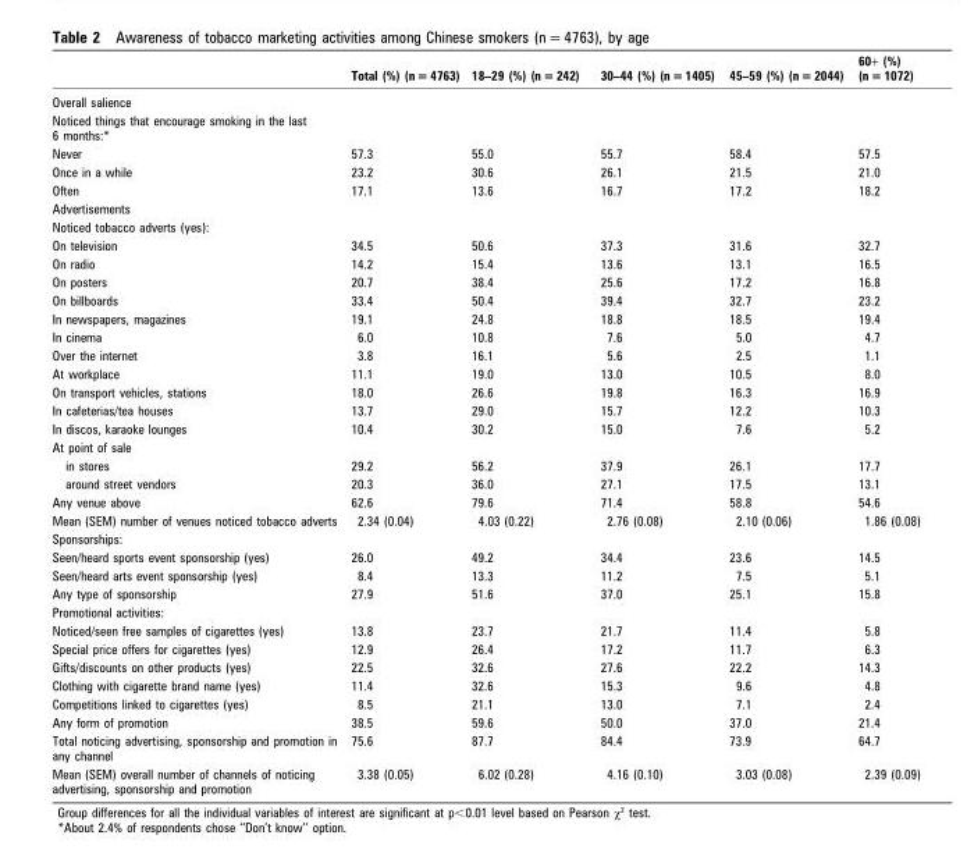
<table><thead><tr><td></td><td>Total (%) (n = 4763)</td><td>18–29 (%) (n = 242)</td><td>30–44 (%) (n = 1405)</td><td>45–59 (%) (n = 2044)</td><td>60+ (%) (n = 1072)</td></tr></thead><tbody><tr><td colspan="6">Overall salience</td></tr><tr><td colspan="6">Noticed things that encourage smoking in the last 6 months:*</td></tr><tr><td>Never</td><td>57.3</td><td>55.0</td><td>55.7</td><td>58.4</td><td>57.5</td></tr><tr><td>Once in a while</td><td>23.2</td><td>30.6</td><td>26.1</td><td>21.5</td><td>21.0</td></tr><tr><td>Often</td><td>17.1</td><td>13.6</td><td>16.7</td><td>17.2</td><td>18.2</td></tr><tr><td colspan="6">Advertisements</td></tr><tr><td colspan="6">Noticed tobacco adverts (yes):</td></tr><tr><td>On television</td><td>34.5</td><td>50.6</td><td>37.3</td><td>31.6</td><td>32.7</td></tr><tr><td>On radio</td><td>14.2</td><td>15.4</td><td>13.6</td><td>13.1</td><td>16.5</td></tr><tr><td>On posters</td><td>20.7</td><td>38.4</td><td>25.6</td><td>17.2</td><td>16.8</td></tr><tr><td>On billboards</td><td>33.4</td><td>50.4</td><td>39.4</td><td>32.7</td><td>23.2</td></tr><tr><td>In newspapers, magazines</td><td>19.1</td><td>24.8</td><td>18.8</td><td>18.5</td><td>19.4</td></tr><tr><td>In cinema</td><td>6.0</td><td>10.8</td><td>7.6</td><td>5.0</td><td>4.7</td></tr><tr><td>Over the internet</td><td>3.8</td><td>16.1</td><td>5.6</td><td>2.5</td><td>1.1</td></tr><tr><td>At workplace</td><td>11.1</td><td>19.0</td><td>13.0</td><td>10.5</td><td>8.0</td></tr><tr><td>On transport vehicles, stations</td><td>18.0</td><td>26.6</td><td>19.8</td><td>16.3</td><td>16.9</td></tr><tr><td>In cafeterias/tea houses</td><td>13.7</td><td>29.0</td><td>15.7</td><td>12.2</td><td>10.3</td></tr><tr><td>In discos, karaoke lounges</td><td>10.4</td><td>30.2</td><td>15.0</td><td>7.6</td><td>5.2</td></tr><tr><td colspan="6">At point of sale</td></tr><tr><td>in stores</td><td>29.2</td><td>56.2</td><td>37.9</td><td>26.1</td><td>17.7</td></tr><tr><td>around street vendors</td><td>20.3</td><td>36.0</td><td>27.1</td><td>17.5</td><td>13.1</td></tr><tr><td>Any venue above</td><td>62.6</td><td>79.6</td><td>71.4</td><td>58.8</td><td>54.6</td></tr><tr><td>Mean (SEM) number of venues noticed tobacco adverts</td><td>2.34 (0.04)</td><td>4.03 (0.22)</td><td>2.76 (0.08)</td><td>2.10 (0.06)</td><td>1.86 (0.08)</td></tr><tr><td colspan="6">Sponsorships:</td></tr><tr><td>Seen/heard sports event sponsorship (yes)</td><td>26.0</td><td>49.2</td><td>34.4</td><td>23.6</td><td>14.5</td></tr><tr><td>Seen/heard arts event sponsorship (yes)</td><td>8.4</td><td>13.3</td><td>11.2</td><td>7.5</td><td>5.1</td></tr><tr><td>Any type of sponsorship</td><td>27.9</td><td>51.6</td><td>37.0</td><td>25.1</td><td>15.8</td></tr><tr><td colspan="6">Promotional activities:</td></tr><tr><td>Noticed/seen free samples of cigarettes (yes)</td><td>13.8</td><td>23.7</td><td>21.7</td><td>11.4</td><td>5.8</td></tr><tr><td>Special price offers for cigarettes (yes)</td><td>12.9</td><td>26.4</td><td>17.2</td><td>11.7</td><td>6.3</td></tr><tr><td>Gifts/discounts on other products (yes)</td><td>22.5</td><td>32.6</td><td>27.6</td><td>22.2</td><td>14.3</td></tr><tr><td>Clothing with cigarette brand name (yes)</td><td>11.4</td><td>32.6</td><td>15.3</td><td>9.6</td><td>4.8</td></tr><tr><td>Competitions linked to cigarettes (yes)</td><td>8.5</td><td>21.1</td><td>13.0</td><td>7.1</td><td>2.4</td></tr><tr><td>Any form of promotion</td><td>38.5</td><td>59.6</td><td>50.0</td><td>37.0</td><td>21.4</td></tr><tr><td>Total noticing advertising, sponsorship and promotion in any channel</td><td>75.6</td><td>87.7</td><td>84.4</td><td>73.9</td><td>64.7</td></tr><tr><td>Mean (SEM) overall number of channels of noticing advertising, sponsorship and promotion</td><td>3.38 (0.05)</td><td>6.02 (0.28)</td><td>4.16 (0.10)</td><td>3.03 (0.08)</td><td>2.39 (0.09)</td></tr></tbody></table>